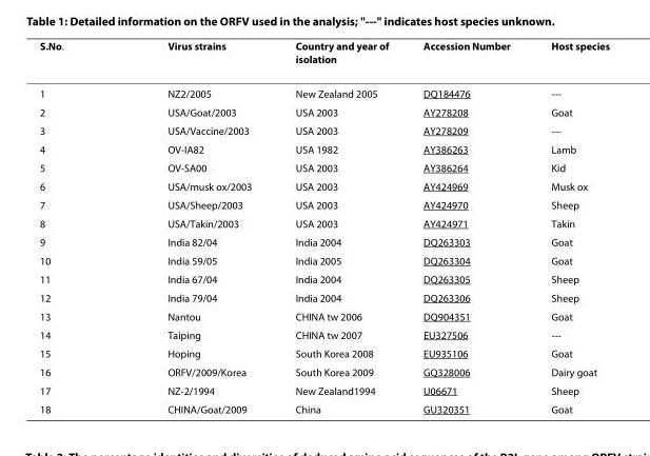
<table><thead><tr><td>S.No.</td><td>Virus strains</td><td>Country and year of isolation</td><td>Accession Number</td><td>Host species</td></tr></thead><tbody><tr><td>1</td><td>NZ2/2005</td><td>New Zealand 2005</td><td>DQ184476</td><td>---</td></tr><tr><td>2</td><td>USA/Goat/2003</td><td>USA 2003</td><td>AY278208</td><td>Goat</td></tr><tr><td>3</td><td>USA/Vaccine/2003</td><td>USA 2003</td><td>AY278209</td><td>---</td></tr><tr><td>4</td><td>OV-IA82</td><td>USA 1982</td><td>AY386263</td><td>Lamb</td></tr><tr><td>5</td><td>OV-SA00</td><td>USA 2003</td><td>AY386264</td><td>Kid</td></tr><tr><td>6</td><td>USA/musk ox/2003</td><td>USA 2003</td><td>AY424969</td><td>Musk ox</td></tr><tr><td>7</td><td>USA/Sheep/2003</td><td>USA 2003</td><td>AY424970</td><td>Sheep</td></tr><tr><td>8</td><td>USA/Takin/2003</td><td>USA 2003</td><td>AY424971</td><td>Takin</td></tr><tr><td>9</td><td>India 82/04</td><td>India 2004</td><td>DQ263303</td><td>Goat</td></tr><tr><td>10</td><td>India 59/05</td><td>India 2005</td><td>DQ263304</td><td>Goat</td></tr><tr><td>11</td><td>India 67/04</td><td>India 2004</td><td>DQ263305</td><td>Sheep</td></tr><tr><td>12</td><td>India 79/04</td><td>India 2004</td><td>DQ263306</td><td>Sheep</td></tr><tr><td>13</td><td>Nantou</td><td>CHINA tw 2006</td><td>DQ904351</td><td>Goat</td></tr><tr><td>14</td><td>Taiping</td><td>CHINA tw 2007</td><td>EU327506</td><td>---</td></tr><tr><td>15</td><td>Hoping</td><td>South Korea 2008</td><td>EU935106</td><td>Goat</td></tr><tr><td>16</td><td>ORFV/2009/Korea</td><td>South Korea 2009</td><td>GQ328006</td><td>Dairy goat</td></tr><tr><td>17</td><td>NZ-2/1994</td><td>New Zealand1994</td><td>U06671</td><td>Sheep</td></tr><tr><td>18</td><td>CHINA/Goat/2009</td><td>China</td><td>GU320351</td><td>Goat</td></tr></tbody></table>